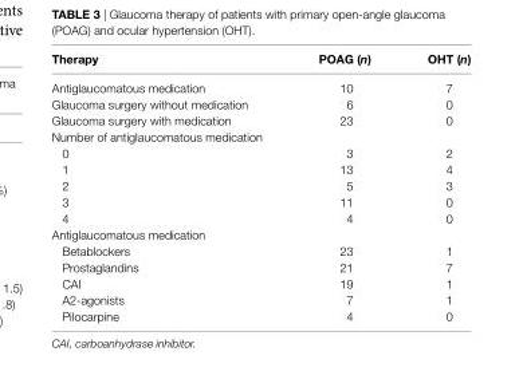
<table><thead><tr><td>Therapy</td><td>POag (n)</td><td>OhT (n)</td></tr></thead><tbody><tr><td>Antiglaucomatous medication</td><td>10</td><td>7</td></tr><tr><td>Glaucoma surgery without medication</td><td>6</td><td>0</td></tr><tr><td>Glaucoma surgery with medication</td><td>23</td><td>0</td></tr><tr><td colspan="3">Number of antiglaucomatous medication</td></tr><tr><td>0</td><td>3</td><td>2</td></tr><tr><td>1</td><td>13</td><td>4</td></tr><tr><td>2</td><td>5</td><td>3</td></tr><tr><td>3</td><td>11</td><td>0</td></tr><tr><td>4</td><td>4</td><td>0</td></tr><tr><td colspan="3">Antiglaucomatous medication</td></tr><tr><td>Betablockers</td><td>23</td><td>1</td></tr><tr><td>Prostaglandins</td><td>21</td><td>7</td></tr><tr><td>CAI</td><td>19</td><td>1</td></tr><tr><td>A2-agonists</td><td>7</td><td>1</td></tr><tr><td>Pilocarpine</td><td>4</td><td>0</td></tr></tbody></table>